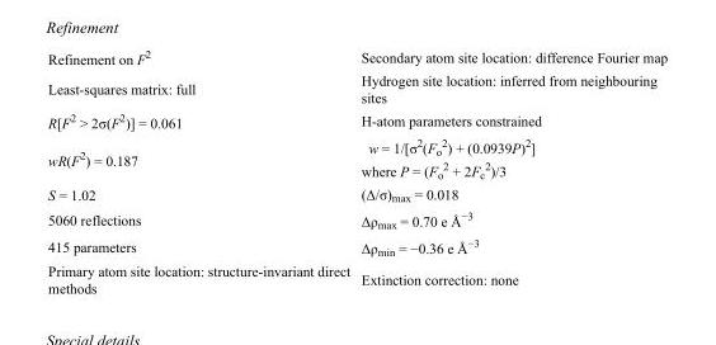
<table><tbody><tr><td>Refinement on F<sup>2</sup></td><td>Secondary atom site location: difference Fourier map</td></tr><tr><td>Least-squares matrix: full</td><td>Hydrogen site location: inferred from neighbouring sites</td></tr><tr><td>R[F<sup>2</sup> &gt; 2σ(F<sup>2</sup>)] = 0.061</td><td>H-atom parameters constrained</td></tr><tr><td>wR(F<sup>2</sup>) = 0.187</td><td>w = 1/[σ<sup>2</sup>(F<sub>o</sub> <sup>2</sup>) + (0.0939P)<sup>2</sup>] where P = (F<sub>o</sub> <sup>2</sup> + 2F<sub>c</sub> <sup>2</sup>)/3</td></tr><tr><td>S = 1.02</td><td>(Δ/σ)<sub>max</sub> = 0.018</td></tr><tr><td>5060 reflections</td><td>Δρ<sub>max</sub> = 0.70 e Å<sup>−3</sup></td></tr><tr><td>415 parameters</td><td>Δρ<sub>min</sub> = −0.36 e Å<sup>−3</sup></td></tr><tr><td>Primary atom site location: structure-invariant direct methods</td><td>Extinction correction: none</td></tr></tbody></table>